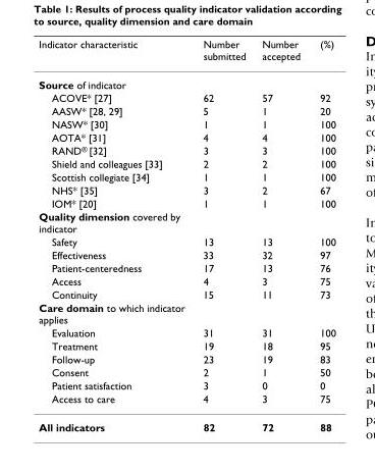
<table><thead><tr><td>Indicator characteristic</td><td>Number submitted</td><td>Number accepted</td><td>(%)</td></tr></thead><tbody><tr><td colspan="4">Source of indicator</td></tr><tr><td>ACOVE* [27]</td><td>62</td><td>57</td><td>92</td></tr><tr><td>AASW* [28, 29]</td><td>5</td><td>1</td><td>20</td></tr><tr><td>NASW* [30]</td><td>1</td><td>1</td><td>100</td></tr><tr><td>AOTA* [31]</td><td>4</td><td>4</td><td>100</td></tr><tr><td>RAND<sup>®</sup> [32]</td><td>3</td><td>3</td><td>100</td></tr><tr><td>Shield and colleagues [33]</td><td>2</td><td>2</td><td>100</td></tr><tr><td>Scottish collegiate [34]</td><td>1</td><td>1</td><td>100</td></tr><tr><td>NHS* [35]</td><td>3</td><td>2</td><td>67</td></tr><tr><td>IOM* [20]</td><td>1</td><td>1</td><td>100</td></tr><tr><td colspan="4">Quality dimension covered by indicator</td></tr><tr><td>Safety</td><td>13</td><td>13</td><td>100</td></tr><tr><td>Effectiveness</td><td>33</td><td>32</td><td>97</td></tr><tr><td>Patient-centeredness</td><td>17</td><td>13</td><td>76</td></tr><tr><td>Access</td><td>4</td><td>3</td><td>75</td></tr><tr><td>Continuity</td><td>15</td><td>11</td><td>73</td></tr><tr><td colspan="4">Care domain to which indicator applies</td></tr><tr><td>Evaluation</td><td>31</td><td>31</td><td>100</td></tr><tr><td>Treatment</td><td>19</td><td>18</td><td>95</td></tr><tr><td>Follow-up</td><td>23</td><td>19</td><td>83</td></tr><tr><td>Consent</td><td>2</td><td>1</td><td>50</td></tr><tr><td>Patient satisfaction</td><td>3</td><td>0</td><td>0</td></tr><tr><td>Access to care</td><td>4</td><td>3</td><td>75</td></tr><tr><td>All indicators</td><td>82</td><td>72</td><td>88</td></tr></tbody></table>